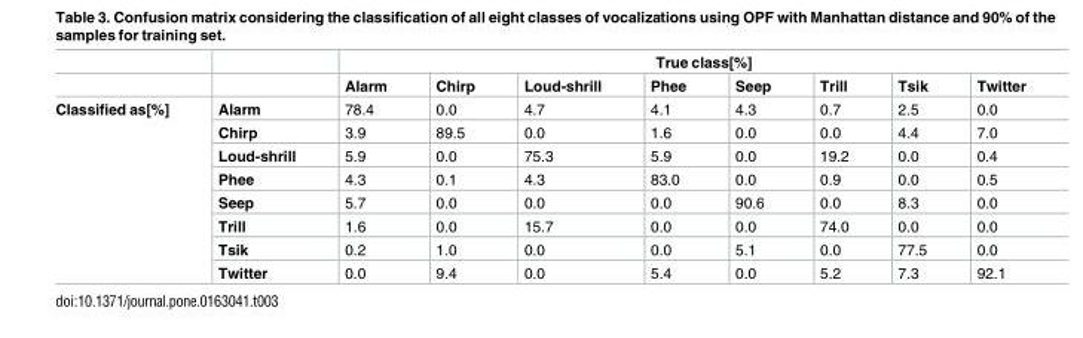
<table><thead><tr><td rowspan="2"></td><td rowspan="2"></td><td colspan="8">True class[%]</td></tr><tr><td>Alarm</td><td>Chirp</td><td>Loud-shrill</td><td>Phee</td><td>Seep</td><td>Trill</td><td>Tsik</td><td>Twitter</td></tr></thead><tbody><tr><td rowspan="8">Classified as[%]</td><td>Alarm</td><td>78.4</td><td>0.0</td><td>4.7</td><td>4.1</td><td>4.3</td><td>0.7</td><td>2.5</td><td>0.0</td></tr><tr><td>Chirp</td><td>3.9</td><td>89.5</td><td>0.0</td><td>1.6</td><td>0.0</td><td>0.0</td><td>4.4</td><td>7.0</td></tr><tr><td>Loud-shrill</td><td>5.9</td><td>0.0</td><td>75.3</td><td>5.9</td><td>0.0</td><td>19.2</td><td>0.0</td><td>0.4</td></tr><tr><td>Phee</td><td>4.3</td><td>0.1</td><td>4.3</td><td>83.0</td><td>0.0</td><td>0.9</td><td>0.0</td><td>0.5</td></tr><tr><td>Seep</td><td>5.7</td><td>0.0</td><td>0.0</td><td>0.0</td><td>90.6</td><td>0.0</td><td>8.3</td><td>0.0</td></tr><tr><td>Trill</td><td>1.6</td><td>0.0</td><td>15.7</td><td>0.0</td><td>0.0</td><td>74.0</td><td>0.0</td><td>0.0</td></tr><tr><td>Tsik</td><td>0.2</td><td>1.0</td><td>0.0</td><td>0.0</td><td>5.1</td><td>0.0</td><td>77.5</td><td>0.0</td></tr><tr><td>Twitter</td><td>0.0</td><td>9.4</td><td>0.0</td><td>5.4</td><td>0.0</td><td>5.2</td><td>7.3</td><td>92.1</td></tr></tbody></table>